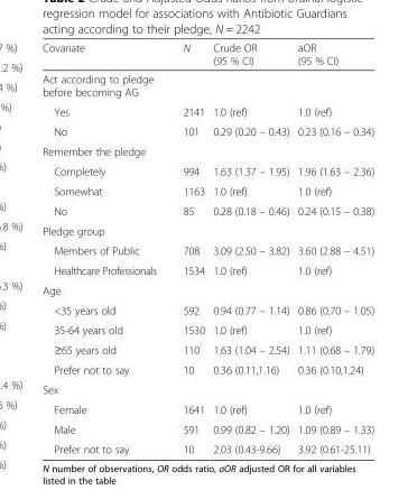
<table><thead><tr><td>Covariate</td><td>N</td><td>Crude OR (95 % CI)</td><td>aOR (95 % CI)</td></tr></thead><tbody><tr><td colspan="4">Act according to pledge before becoming AG</td></tr><tr><td>Yes</td><td>2141</td><td>1.0 (ref)</td><td>1.0 (ref)</td></tr><tr><td>No</td><td>101</td><td>0.29 (0.20 – 0.43)</td><td>0.23 (0.16 – 0.34)</td></tr><tr><td colspan="4">Remember the pledge</td></tr><tr><td>Completely</td><td>994</td><td>1.63 (1.37 – 1.95)</td><td>1.96 (1.63 – 2.36)</td></tr><tr><td>Somewhat</td><td>1163</td><td>1.0 (ref)</td><td>1.0 (ref)</td></tr><tr><td>No</td><td>85</td><td>0.28 (0.18 – 0.46)</td><td>0.24 (0.15 – 0.38)</td></tr><tr><td colspan="4">Pledge group</td></tr><tr><td>Members of Public</td><td>708</td><td>3.09 (2.50 – 3.82)</td><td>3.60 (2.88 – 4.51)</td></tr><tr><td>Healthcare Professionals</td><td>1534</td><td>1.0 (ref)</td><td>1.0 (ref)</td></tr><tr><td colspan="4">Age</td></tr><tr><td>&lt;35 years old</td><td>592</td><td>0.94 (0.77 – 1.14)</td><td>0.86 (0.70 – 1.05)</td></tr><tr><td>35-64 years old</td><td>1530</td><td>1.0 (ref)</td><td>1.0 (ref)</td></tr><tr><td>≥65 years old</td><td>110</td><td>1.63 (1.04 – 2.54)</td><td>1.11 (0.68 – 1.79)</td></tr><tr><td>Prefer not to say</td><td>10</td><td>0.36 (0.11,1.16)</td><td>0.36 (0.10,1.24)</td></tr><tr><td colspan="4">Sex</td></tr><tr><td>Female</td><td>1641</td><td>1.0 (ref)</td><td>1.0 (ref)</td></tr><tr><td>Male</td><td>591</td><td>0.99 (0.82 – 1.20)</td><td>1.09 (0.89 – 1.33)</td></tr><tr><td>Prefer not to say</td><td>10</td><td>2.03 (0.43-9.66)</td><td>3.92 (0.61-25.11)</td></tr></tbody></table>